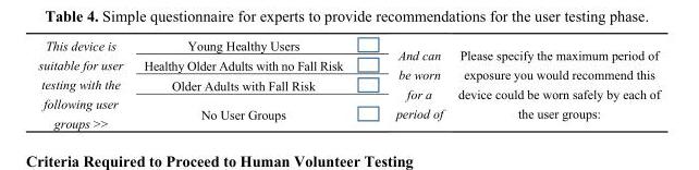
<table><tbody><tr><td rowspan="4">This device is suitable for user testing with the following user groups &gt;&gt;</td><td>Young Healthy Users</td><td rowspan="4">And can be worn for a period of</td><td rowspan="4">Please specify the maximum period of exposure you would recommend this device could be worn safely by each of the user groups:</td></tr><tr><td>Healthy Older Adults with no Fall Risk</td></tr><tr><td>Older Adults with Fall Risk</td></tr><tr><td>No User Groups</td></tr></tbody></table>